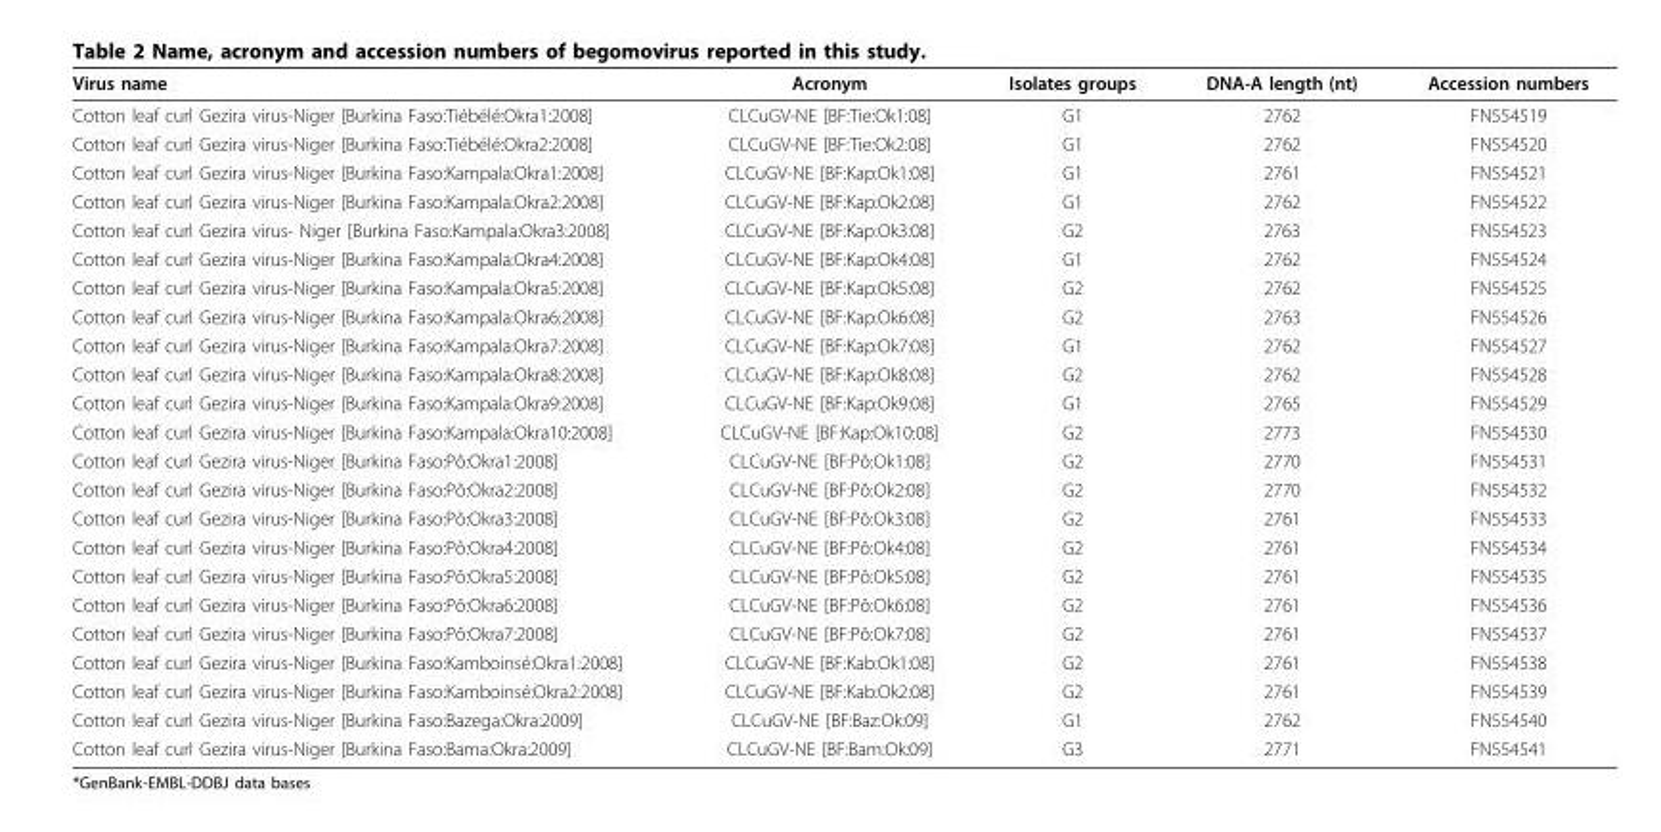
<table><thead><tr><td>Virus name</td><td>Acronym</td><td>Isolates groups</td><td>DNA-A length (nt)</td><td>Accession numbers</td></tr></thead><tbody><tr><td>Cotton leaf curl Gezira virus-Niger [Burkina Faso:Tiébélé:Okra1:2008]</td><td>CLCuGV-NE [BF:Tie:Ok1:08]</td><td>G1</td><td>2762</td><td>FN554519</td></tr><tr><td>Cotton leaf curl Gezira virus-Niger [Burkina Faso:Tiébélé:Okra2:2008]</td><td>CLCuGV-NE [BF:Tie:Ok2:08]</td><td>G1</td><td>2762</td><td>FN554520</td></tr><tr><td>Cotton leaf curl Gezira virus-Niger [Burkina Faso:Kampala:Okra1:2008]</td><td>CLCuGV-NE [BF:Kap:Ok1:08]</td><td>G1</td><td>2761</td><td>FN554521</td></tr><tr><td>Cotton leaf curl Gezira virus-Niger [Burkina Faso:Kampala:Okra2:2008]</td><td>CLCuGV-NE [BF:Kap:Ok2:08]</td><td>G1</td><td>2762</td><td>FN554522</td></tr><tr><td>Cotton leaf curl Gezira virus- Niger [Burkina Faso:Kampala:Okra3:2008]</td><td>CLCuGV-NE [BF:Kap:Ok3:08]</td><td>G2</td><td>2763</td><td>FN554523</td></tr><tr><td>Cotton leaf curl Gezira virus-Niger [Burkina Faso:Kampala:Okra4:2008]</td><td>CLCuGV-NE [BF:Kap:Ok4:08]</td><td>G1</td><td>2762</td><td>FN554524</td></tr><tr><td>Cotton leaf curl Gezira virus-Niger [Burkina Faso:Kampala:Okra5:2008]</td><td>CLCuGV-NE [BF:Kap:Ok5:08]</td><td>G2</td><td>2762</td><td>FN554525</td></tr><tr><td>Cotton leaf curl Gezira virus-Niger [Burkina Faso:Kampala:Okra6:2008]</td><td>CLCuGV-NE [BF:Kap:Ok6:08]</td><td>G2</td><td>2763</td><td>FN554526</td></tr><tr><td>Cotton leaf curl Gezira virus-Niger [Burkina Faso:Kampala:Okra7:2008]</td><td>CLCuGV-NE [BF:Kap:Ok7:08]</td><td>G1</td><td>2762</td><td>FN554527</td></tr><tr><td>Cotton leaf curl Gezira virus-Niger [Burkina Faso:Kampala:Okra8:2008]</td><td>CLCuGV-NE [BF:Kap:Ok8:08]</td><td>G2</td><td>2762</td><td>FN554528</td></tr><tr><td>Cotton leaf curl Gezira virus-Niger [Burkina Faso:Kampala:Okra9:2008]</td><td>CLCuGV-NE [BF:Kap:Ok9:08]</td><td>G1</td><td>2765</td><td>FN554529</td></tr><tr><td>Cotton leaf curl Gezira virus-Niger [Burkina Faso:Kampala:Okra10:2008]</td><td>CLCuGV-NE [BF:Kap:Ok10:08]</td><td>G2</td><td>2773</td><td>FN554530</td></tr><tr><td>Cotton leaf curl Gezira virus-Niger [Burkina Faso:Pô:Okra1:2008]</td><td>CLCuGV-NE [BF:Pô:Ok1:08]</td><td>G2</td><td>2770</td><td>FN554531</td></tr><tr><td>Cotton leaf curl Gezira virus-Niger [Burkina Faso:Pô:Okra2:2008]</td><td>CLCuGV-NE [BF:Pô:Ok2:08]</td><td>G2</td><td>2770</td><td>FN554532</td></tr><tr><td>Cotton leaf curl Gezira virus-Niger [Burkina Faso:Pô:Okra3:2008]</td><td>CLCuGV-NE [BF:Pô:Ok3:08]</td><td>G2</td><td>2761</td><td>FN554533</td></tr><tr><td>Cotton leaf curl Gezira virus-Niger [Burkina Faso:Pô:Okra4:2008]</td><td>CLCuGV-NE [BF:Pô:Ok4:08]</td><td>G2</td><td>2761</td><td>FN554534</td></tr><tr><td>Cotton leaf curl Gezira virus-Niger [Burkina Faso:Pô:Okra5:2008]</td><td>CLCuGV-NE [BF:Pô:Ok5:08]</td><td>G2</td><td>2761</td><td>FN554535</td></tr><tr><td>Cotton leaf curl Gezira virus-Niger [Burkina Faso:Pô:Okra6:2008]</td><td>CLCuGV-NE [BF:Pô:Ok6:08]</td><td>G2</td><td>2761</td><td>FN554536</td></tr><tr><td>Cotton leaf curl Gezira virus-Niger [Burkina Faso:Pô:Okra7:2008]</td><td>CLCuGV-NE [BF:Pô:Ok7:08]</td><td>G2</td><td>2761</td><td>FN554537</td></tr><tr><td>Cotton leaf curl Gezira virus-Niger [Burkina Faso:Kamboinsé:Okra1:2008]</td><td>CLCuGV-NE [BF:Kab:Ok1:08]</td><td>G2</td><td>2761</td><td>FN554538</td></tr><tr><td>Cotton leaf curl Gezira virus-Niger [Burkina Faso:Kamboinsé:Okra2:2008]</td><td>CLCuGV-NE [BF:Kab:Ok2:08]</td><td>G2</td><td>2761</td><td>FN554539</td></tr><tr><td>Cotton leaf curl Gezira virus-Niger [Burkina Faso:Bazega:Okra:2009]</td><td>CLCuGV-NE [BF:Baz:Ok:09]</td><td>G1</td><td>2762</td><td>FN554540</td></tr><tr><td>Cotton leaf curl Gezira virus-Niger [Burkina Faso:Bama:Okra:2009]</td><td>CLCuGV-NE [BF:Bam:Ok:09]</td><td>G3</td><td>2771</td><td>FN554541</td></tr></tbody></table>